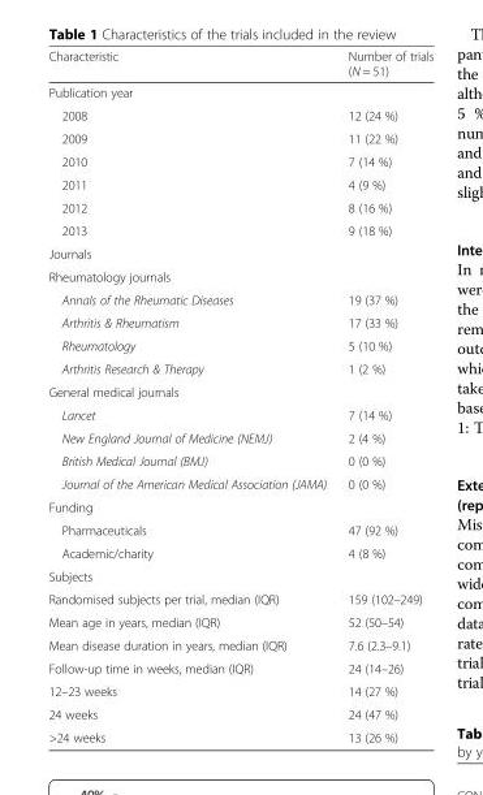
<table><thead><tr><td>Characteristic</td><td>Number of trials (N = 51)</td></tr></thead><tbody><tr><td colspan="2">Publication year</td></tr><tr><td>2008</td><td>12 (24 %)</td></tr><tr><td>2009</td><td>11 (22 %)</td></tr><tr><td>2010</td><td>7 (14 %)</td></tr><tr><td>2011</td><td>4 (9 %)</td></tr><tr><td>2012</td><td>8 (16 %)</td></tr><tr><td>2013</td><td>9 (18 %)</td></tr><tr><td colspan="2">Journals</td></tr><tr><td colspan="2">Rheumatology journals</td></tr><tr><td>Annals of the Rheumatic Diseases</td><td>19 (37 %)</td></tr><tr><td>Arthritis &amp; Rheumatism</td><td>17 (33 %)</td></tr><tr><td>Rheumatology</td><td>5 (10 %)</td></tr><tr><td>Arthritis Research &amp; Therapy</td><td>1 (2 %)</td></tr><tr><td colspan="2">General medical journals</td></tr><tr><td>Lancet</td><td>7 (14 %)</td></tr><tr><td>New England Journal of Medicine (NEMJ)</td><td>2 (4 %)</td></tr><tr><td>British Medical Journal (BMJ)</td><td>0 (0 %)</td></tr><tr><td>Journal of the American Medical Association (JAMA)</td><td>0 (0 %)</td></tr><tr><td colspan="2">Funding</td></tr><tr><td>Pharmaceuticals</td><td>47 (92 %)</td></tr><tr><td>Academic/charity</td><td>4 (8 %)</td></tr><tr><td colspan="2">Subjects</td></tr><tr><td>Randomised subjects per trial, median (IQR)</td><td>159 (102–249)</td></tr><tr><td>Mean age in years, median (IQR)</td><td>52 (50–54)</td></tr><tr><td>Mean disease duration in years, median (IQR)</td><td>7.6 (2.3–9.1)</td></tr><tr><td>Follow-up time in weeks, median (IQR)</td><td>24 (14–26)</td></tr><tr><td>12–23 weeks</td><td>14 (27 %)</td></tr><tr><td>24 weeks</td><td>24 (47 %)</td></tr><tr><td>&gt;24 weeks</td><td>13 (26 %)</td></tr></tbody></table>